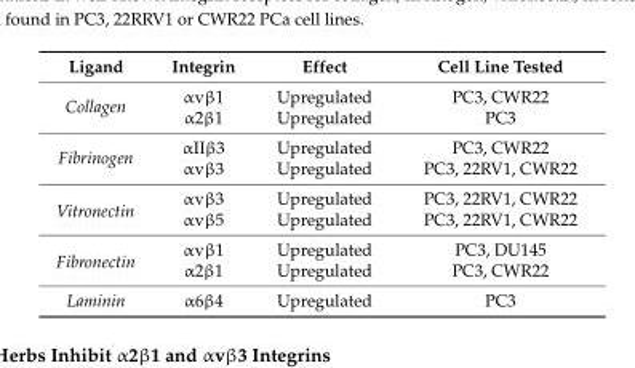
<table><thead><tr><td>Ligand</td><td>Integrin</td><td>Effect</td><td>Cell Line Tested</td></tr></thead><tbody><tr><td rowspan="2">Collagen</td><td>αvβ1</td><td>Upregulated</td><td>PC3, CWR22</td></tr><tr><td>α2β1</td><td>Upregulated</td><td>PC3</td></tr><tr><td rowspan="2">Fibrinogen</td><td>αIIβ3</td><td>Upregulated</td><td>PC3, CWR22</td></tr><tr><td>αvβ3</td><td>Upregulated</td><td>PC3, 22RV1, CWR22</td></tr><tr><td rowspan="2">Vitronectin</td><td>αvβ3</td><td>Upregulated</td><td>PC3, 22RV1, CWR22</td></tr><tr><td>αvβ5</td><td>Upregulated</td><td>PC3, 22RV1, CWR22</td></tr><tr><td rowspan="2">Fibronectin</td><td>αvβ1</td><td>Upregulated</td><td>PC3, DU145</td></tr><tr><td>α2β1</td><td>Upregulated</td><td>PC3, CWR22</td></tr><tr><td>Laminin</td><td>α6β4</td><td>Upregulated</td><td>PC3</td></tr></tbody></table>